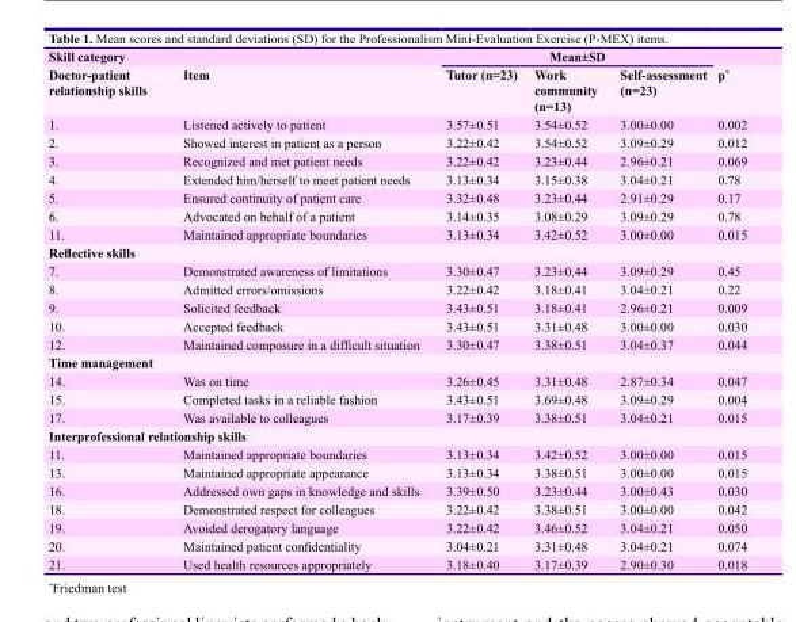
<table><thead><tr><td rowspan="2">Skill category Doctor-patient relationship skills</td><td rowspan="2">Item</td><td colspan="3">Mean±SD</td><td rowspan="2">p*</td></tr><tr><td>Tutor (n=23)</td><td>Work community (n=13)</td><td>Self-assessment (n=23)</td></tr></thead><tbody><tr><td>1.</td><td>Listened actively to patient</td><td>3.57±0.51</td><td>3.54±0.52</td><td>3.00±0.00</td><td>0.002</td></tr><tr><td>2.</td><td>Showed interest in patient as a person</td><td>3.22±0.42</td><td>3.54±0.52</td><td>3.09±0.29</td><td>0.012</td></tr><tr><td>3.</td><td>Recognized and met patient needs</td><td>3.22±0.42</td><td>3.23±0.44</td><td>2.96±0.21</td><td>0.069</td></tr><tr><td>4.</td><td>Extended him/herself to meet patient needs</td><td>3.13±0.34</td><td>3.15±0.38</td><td>3.04±0.21</td><td>0.78</td></tr><tr><td>5.</td><td>Ensured continuity of patient care</td><td>3.32±0.48</td><td>3.23±0.44</td><td>2.91±0.29</td><td>0.17</td></tr><tr><td>6.</td><td>Advocated on behalf of a patient</td><td>3.14±0.35</td><td>3.08±0.29</td><td>3.09±0.29</td><td>0.78</td></tr><tr><td>11.</td><td>Maintained appropriate boundaries</td><td>3.13±0.34</td><td>3.42±0.52</td><td>3.00±0.00</td><td>0.015</td></tr><tr><td colspan="6">Reflective skills</td></tr><tr><td>7.</td><td>Demonstrated awareness of limitations</td><td>3.30±0.47</td><td>3.23±0.44</td><td>3.09±0.29</td><td>0.45</td></tr><tr><td>8.</td><td>Admitted errors/omissions</td><td>3.22±0.42</td><td>3.18±0.41</td><td>3.04±0.21</td><td>0.22</td></tr><tr><td>9.</td><td>Solicited feedback</td><td>3.43±0.51</td><td>3.18±0.41</td><td>2.96±0.21</td><td>0.009</td></tr><tr><td>10.</td><td>Accepted feedback</td><td>3.43±0.51</td><td>3.31±0.48</td><td>3.00±0.00</td><td>0.030</td></tr><tr><td>12.</td><td>Maintained composure in a difficult situation</td><td>3.30±0.47</td><td>3.38±0.51</td><td>3.04±0.37</td><td>0.044</td></tr><tr><td colspan="6">Time management</td></tr><tr><td>14.</td><td>Was on time</td><td>3.26±0.45</td><td>3.31±0.48</td><td>2.87±0.34</td><td>0.047</td></tr><tr><td>15.</td><td>Completed tasks in a reliable fashion</td><td>3.43±0.51</td><td>3.69±0.48</td><td>3.09±0.29</td><td>0.004</td></tr><tr><td>17.</td><td>Was available to colleagues</td><td>3.17±0.39</td><td>3.38±0.51</td><td>3.04±0.21</td><td>0.015</td></tr><tr><td colspan="6">Interprofessional relationship skills</td></tr><tr><td>11.</td><td>Maintained appropriate boundaries</td><td>3.13±0.34</td><td>3.42±0.52</td><td>3.00±0.00</td><td>0.015</td></tr><tr><td>13.</td><td>Maintained appropriate appearance</td><td>3.13±0.34</td><td>3.38±0.51</td><td>3.00±0.00</td><td>0.015</td></tr><tr><td>16.</td><td>Addressed own gaps in knowledge and skills</td><td>3.39±0.50</td><td>3.23±0.44</td><td>3.00±0.43</td><td>0.030</td></tr><tr><td>18.</td><td>Demonstrated respect for colleagues</td><td>3.22±0.42</td><td>3.38±0.51</td><td>3.00±0.00</td><td>0.042</td></tr><tr><td>19.</td><td>Avoided derogatory language</td><td>3.22±0.42</td><td>3.46±0.52</td><td>3.04±0.21</td><td>0.050</td></tr><tr><td>20.</td><td>Maintained patient confidentiality</td><td>3.04±0.21</td><td>3.31±0.48</td><td>3.04±0.21</td><td>0.074</td></tr><tr><td>21.</td><td>Used health resources appropriately</td><td>3.18±0.40</td><td>3.17±0.39</td><td>2.90±0.30</td><td>0.018</td></tr></tbody></table>